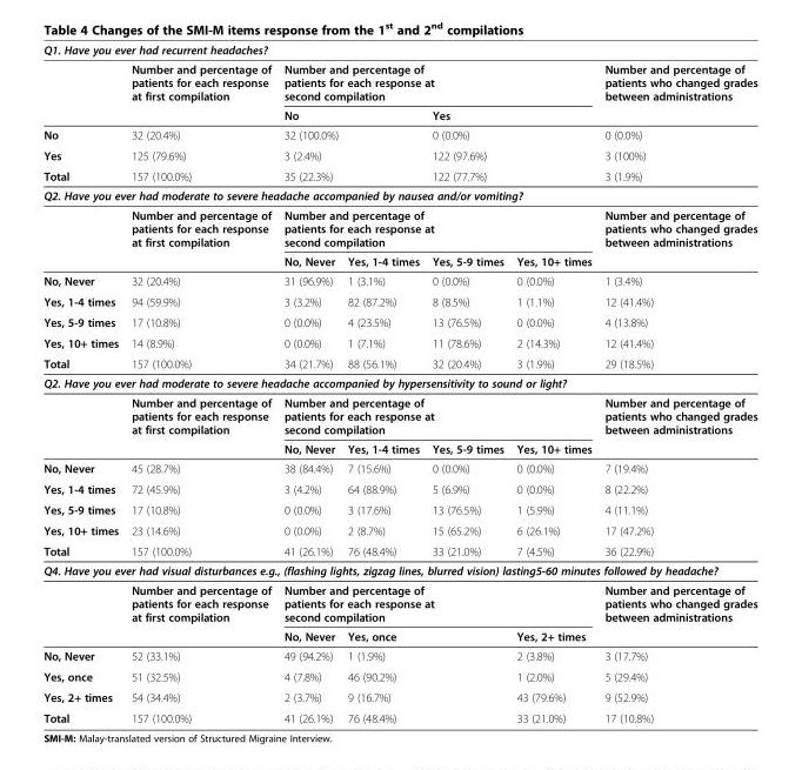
<table><thead><tr><td colspan="7">Q1. Have you ever had recurrent headaches?</td></tr><tr><td rowspan="2"></td><td rowspan="2">Number and percentage of patients for each response at first compilation</td><td colspan="4">Number and percentage of patients for each response at second compilation</td><td rowspan="2">Number and percentage of patients who changed grades between administrations</td></tr><tr><td colspan="2">No</td><td colspan="2">Yes</td></tr></thead><tbody><tr><td>No</td><td>32 (20.4%)</td><td colspan="2">32 (100.0%)</td><td colspan="2">0 (0.0%)</td><td>0 (0.0%)</td></tr><tr><td>Yes</td><td>125 (79.6%)</td><td colspan="2">3 (2.4%)</td><td colspan="2">122 (97.6%)</td><td>3 (100%)</td></tr><tr><td>Total</td><td>157 (100.0%)</td><td colspan="2">35 (22.3%)</td><td colspan="2">122 (77.7%)</td><td>3 (1.9%)</td></tr><tr><td colspan="7">Q2. Have you ever had moderate to severe headache accompanied by nausea and/or vomiting?</td></tr><tr><td rowspan="2"></td><td rowspan="2">Number and percentage of patients for each response at first compilation</td><td colspan="4">Number and percentage of patients for each response at second compilation</td><td rowspan="2">Number and percentage of patients who changed grades between administrations</td></tr><tr><td>No, Never</td><td>Yes, 1-4 times</td><td>Yes, 5-9 times</td><td>Yes, 10+ times</td></tr><tr><td>No, Never</td><td>32 (20.4%)</td><td>31 (96.9%)</td><td>1 (3.1%)</td><td>0 (0.0%)</td><td>0 (0.0%)</td><td>1 (3.4%)</td></tr><tr><td>Yes, 1-4 times</td><td>94 (59.9%)</td><td>3 (3.2%)</td><td>82 (87.2%)</td><td>8 (8.5%)</td><td>1 (1.1%)</td><td>12 (41.4%)</td></tr><tr><td>Yes, 5-9 times</td><td>17 (10.8%)</td><td>0 (0.0%)</td><td>4 (23.5%)</td><td>13 (76.5%)</td><td>0 (0.0%)</td><td>4 (13.8%)</td></tr><tr><td>Yes, 10+ times</td><td>14 (8.9%)</td><td>0 (0.0%)</td><td>1 (7.1%)</td><td>11 (78.6%)</td><td>2 (14.3%)</td><td>12 (41.4%)</td></tr><tr><td>Total</td><td>157 (100.0%)</td><td>34 (21.7%)</td><td>88 (56.1%)</td><td>32 (20.4%)</td><td>3 (1.9%)</td><td>29 (18.5%)</td></tr><tr><td colspan="7">Q2. Have you ever had moderate to severe headache accompanied by hypersensitivity to sound or light?</td></tr><tr><td rowspan="2"></td><td rowspan="2">Number and percentage of patients for each response at first compilation</td><td colspan="4">Number and percentage of patients for each response at second compilation</td><td rowspan="2">Number and percentage of patients who changed grades between administrations</td></tr><tr><td>No, Never</td><td>Yes, 1-4 times</td><td>Yes, 5-9 times</td><td>Yes, 10+ times</td></tr><tr><td>No, Never</td><td>45 (28.7%)</td><td>38 (84.4%)</td><td>7 (15.6%)</td><td>0 (0.0%)</td><td>0 (0.0%)</td><td>7 (19.4%)</td></tr><tr><td>Yes, 1-4 times</td><td>72 (45.9%)</td><td>3 (4.2%)</td><td>64 (88.9%)</td><td>5 (6.9%)</td><td>0 (0.0%)</td><td>8 (22.2%)</td></tr><tr><td>Yes, 5-9 times</td><td>17 (10.8%)</td><td>0 (0.0%)</td><td>3 (17.6%)</td><td>13 (76.5%)</td><td>1 (5.9%)</td><td>4 (11.1%)</td></tr><tr><td>Yes, 10+ times</td><td>23 (14.6%)</td><td>0 (0.0%)</td><td>2 (8.7%)</td><td>15 (65.2%)</td><td>6 (26.1%)</td><td>17 (47.2%)</td></tr><tr><td>Total</td><td>157 (100.0%)</td><td>41 (26.1%)</td><td>76 (48.4%)</td><td>33 (21.0%)</td><td>7 (4.5%)</td><td>36 (22.9%)</td></tr><tr><td colspan="7">Q4. Have you ever had visual disturbances e.g., (flashing lights, zigzag lines, blurred vision) lasting5-60 minutes followed by headache?</td></tr><tr><td rowspan="2"></td><td rowspan="2">Number and percentage of patients for each response at first compilation</td><td colspan="4">Number and percentage of patients for each response at second compilation</td><td rowspan="2">Number and percentage of patients who changed grades between administrations</td></tr><tr><td>No, Never</td><td colspan="2">Yes, once</td><td>Yes, 2+ times</td></tr><tr><td>No, Never</td><td>52 (33.1%)</td><td>49 (94.2%)</td><td colspan="2">1 (1.9%)</td><td>2 (3.8%)</td><td>3 (17.7%)</td></tr><tr><td>Yes, once</td><td>51 (32.5%)</td><td>4 (7.8%)</td><td colspan="2">46 (90.2%)</td><td>1 (2.0%)</td><td>5 (29.4%)</td></tr><tr><td>Yes, 2+ times</td><td>54 (34.4%)</td><td>2 (3.7%)</td><td colspan="2">9 (16.7%)</td><td>43 (79.6%)</td><td>9 (52.9%)</td></tr><tr><td>Total</td><td>157 (100.0%)</td><td>41 (26.1%)</td><td colspan="2">76 (48.4%)</td><td>33 (21.0%)</td><td>17 (10.8%)</td></tr></tbody></table>